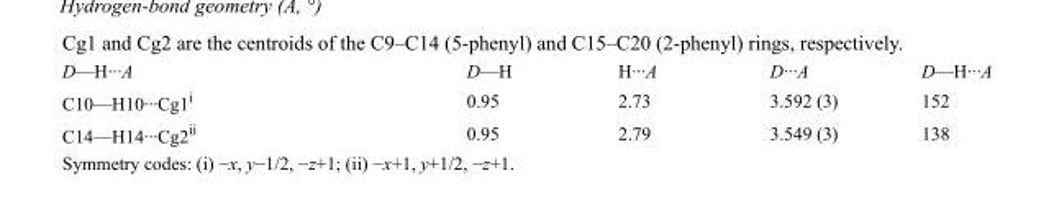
<table><tbody><tr><td>D—H···A</td><td>D—H</td><td>H···A</td><td>D···A</td><td>D—H···A</td></tr><tr><td>C10—H10···Cg1<sup>i</sup></td><td>0.95</td><td>2.73</td><td>3.592 (3)</td><td>152</td></tr><tr><td>C14—H14···Cg2<sup>ii</sup></td><td>0.95</td><td>2.79</td><td>3.549 (3)</td><td>138</td></tr></tbody></table>